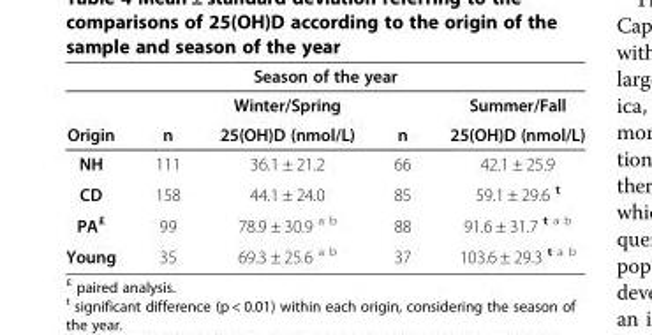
<table><thead><tr><td colspan="5">Season of the year</td></tr><tr><td rowspan="2">Origin</td><td rowspan="2">n</td><td rowspan="2">Winter/Spring 25(OH)D (nmol/L)</td><td rowspan="2">n</td><td rowspan="2">Summer/Fall 25(OH)D (nmol/L)</td></tr><tr></tr></thead><tbody><tr><td>NH</td><td>111</td><td>36.1 ± 21.2</td><td>66</td><td>42.1 ± 25.9</td></tr><tr><td>CD</td><td>158</td><td>44.1 ± 24.0</td><td>85</td><td>59.1 ± 29.6 <sup>t</sup></td></tr><tr><td>PA<sup>£</sup></td><td>99</td><td>78.9 ± 30.9 <sup>a b</sup></td><td>88</td><td>91.6 ± 31.7 <sup>t a b</sup></td></tr><tr><td>Young</td><td>35</td><td>69.3 ± 25.6 <sup>a b</sup></td><td>37</td><td>103.6 ± 29.3 <sup>t a b</sup></td></tr></tbody></table>